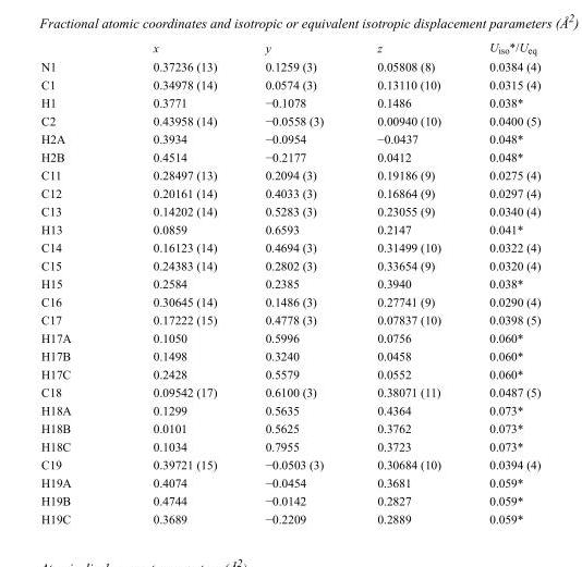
<table><thead><tr><td></td><td>x</td><td>y</td><td>z</td><td>U<sub>iso</sub>*/U<sub>eq</sub></td></tr></thead><tbody><tr><td>N1</td><td>0.37236 (13)</td><td>0.1259 (3)</td><td>0.05808 (8)</td><td>0.0384 (4)</td></tr><tr><td>C1</td><td>0.34978 (14)</td><td>0.0574 (3)</td><td>0.13110 (10)</td><td>0.0315 (4)</td></tr><tr><td>H1</td><td>0.3771</td><td>−0.1078</td><td>0.1486</td><td>0.038*</td></tr><tr><td>C2</td><td>0.43958 (14)</td><td>−0.0558 (3)</td><td>0.00940 (10)</td><td>0.0400 (5)</td></tr><tr><td>H2A</td><td>0.3934</td><td>−0.0954</td><td>−0.0437</td><td>0.048*</td></tr><tr><td>H2B</td><td>0.4514</td><td>−0.2177</td><td>0.0412</td><td>0.048*</td></tr><tr><td>C11</td><td>0.28497 (13)</td><td>0.2094 (3)</td><td>0.19186 (9)</td><td>0.0275 (4)</td></tr><tr><td>C12</td><td>0.20161 (14)</td><td>0.4033 (3)</td><td>0.16864 (9)</td><td>0.0297 (4)</td></tr><tr><td>C13</td><td>0.14202 (14)</td><td>0.5283 (3)</td><td>0.23055 (9)</td><td>0.0340 (4)</td></tr><tr><td>H13</td><td>0.0859</td><td>0.6593</td><td>0.2147</td><td>0.041*</td></tr><tr><td>C14</td><td>0.16123 (14)</td><td>0.4694 (3)</td><td>0.31499 (10)</td><td>0.0322 (4)</td></tr><tr><td>C15</td><td>0.24383 (14)</td><td>0.2802 (3)</td><td>0.33654 (9)</td><td>0.0320 (4)</td></tr><tr><td>H15</td><td>0.2584</td><td>0.2385</td><td>0.3940</td><td>0.038*</td></tr><tr><td>C16</td><td>0.30645 (14)</td><td>0.1486 (3)</td><td>0.27741 (9)</td><td>0.0290 (4)</td></tr><tr><td>C17</td><td>0.17222 (15)</td><td>0.4778 (3)</td><td>0.07837 (10)</td><td>0.0398 (5)</td></tr><tr><td>H17A</td><td>0.1050</td><td>0.5996</td><td>0.0756</td><td>0.060*</td></tr><tr><td>H17B</td><td>0.1498</td><td>0.3240</td><td>0.0458</td><td>0.060*</td></tr><tr><td>H17C</td><td>0.2428</td><td>0.5579</td><td>0.0552</td><td>0.060*</td></tr><tr><td>C18</td><td>0.09542 (17)</td><td>0.6100 (3)</td><td>0.38071 (11)</td><td>0.0487 (5)</td></tr><tr><td>H18A</td><td>0.1299</td><td>0.5635</td><td>0.4364</td><td>0.073*</td></tr><tr><td>H18B</td><td>0.0101</td><td>0.5625</td><td>0.3762</td><td>0.073*</td></tr><tr><td>H18C</td><td>0.1034</td><td>0.7955</td><td>0.3723</td><td>0.073*</td></tr><tr><td>C19</td><td>0.39721 (15)</td><td>−0.0503 (3)</td><td>0.30684 (10)</td><td>0.0394 (4)</td></tr><tr><td>H19A</td><td>0.4074</td><td>−0.0454</td><td>0.3681</td><td>0.059*</td></tr><tr><td>H19B</td><td>0.4744</td><td>−0.0142</td><td>0.2827</td><td>0.059*</td></tr><tr><td>H19C</td><td>0.3689</td><td>−0.2209</td><td>0.2889</td><td>0.059*</td></tr></tbody></table>